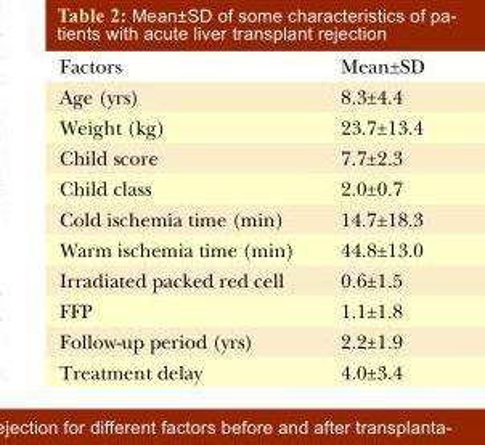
<table><thead><tr><td>Factors</td><td>Mean±SD</td></tr></thead><tbody><tr><td>Age (yrs)</td><td>8.3±4.4</td></tr><tr><td>Weight (kg)</td><td>23.7±13.4</td></tr><tr><td>Child score</td><td>7.7±2.3</td></tr><tr><td>Child class</td><td>2.0±0.7</td></tr><tr><td>Cold ischemia time (min)</td><td>14.7±18.3</td></tr><tr><td>Warm ischemia time (min)</td><td>44.8±13.0</td></tr><tr><td>Irradiated packed red cell</td><td>0.6±1.5</td></tr><tr><td>FFP</td><td>1.1±1.8</td></tr><tr><td>Follow-up period (yrs)</td><td>2.2±1.9</td></tr><tr><td>Treatment delay</td><td>4.0±3.4</td></tr></tbody></table>